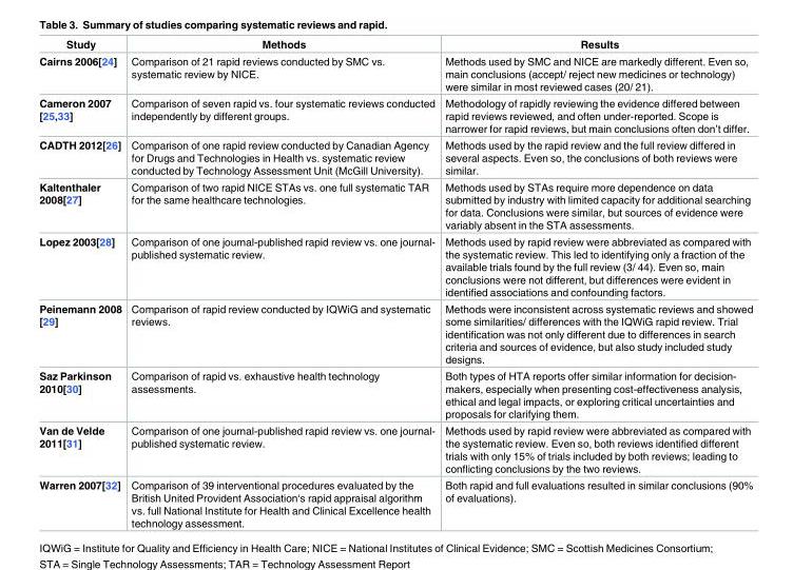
<table><thead><tr><td>Study</td><td>Methods</td><td>Results</td></tr></thead><tbody><tr><td>Cairns 2006[24]</td><td>Comparison of 21 rapid reviews conducted by SMC vs. systematic review by NICE.</td><td>Methods used by SMC and NICE are markedly different. Even so, main conclusions (accept/ reject new medicines or technology) were similar in most reviewed cases (20/ 21).</td></tr><tr><td>Cameron 2007 [25,33]</td><td>Comparison of seven rapid vs. four systematic reviews conducted independently by different groups.</td><td>Methodology of rapidly reviewing the evidence differed between rapid reviews reviewed, and often under-reported. Scope is narrower for rapid reviews, but main conclusions often don’t differ.</td></tr><tr><td>CADTH 2012[26]</td><td>Comparison of one rapid review conducted by Canadian Agency for Drugs and Technologies in Health vs. systematic review conducted by Technology Assessment Unit (McGill University).</td><td>Methods used by the rapid review and the full review differed in several aspects. Even so, the conclusions of both reviews were similar.</td></tr><tr><td>Kaltenthaler 2008[27]</td><td>Comparison of two rapid NICE STAs vs. one full systematic TAR for the same healthcare technologies.</td><td>Methods used by STAs require more dependence on data submitted by industry with limited capacity for additional searching for data. Conclusions were similar, but sources of evidence were variably absent in the STA assessments.</td></tr><tr><td>Lopez 2003[28]</td><td>Comparison of one journal-published rapid review vs. one journal- published systematic review.</td><td>Methods used by rapid review were abbreviated as compared with the systematic review. This led to identifying only a fraction of the available trials found by the full review (3/ 44). Even so, main conclusions were not different, but differences were evident in identified associations and confounding factors.</td></tr><tr><td>Peinemann 2008 [29]</td><td>Comparison of rapid review conducted by IQWiG and systematic reviews.</td><td>Methods were inconsistent across systematic reviews and showed some similarities/ differences with the IQWiG rapid review. Trial identification was not only different due to differences in search criteria and sources of evidence, but also study included study designs.</td></tr><tr><td>Saz Parkinson 2010[30]</td><td>Comparison of rapid vs. exhaustive health technology assessments.</td><td>Both types of HTA reports offer similar information for decision- makers, especially when presenting cost-effectiveness analysis, ethical and legal impacts, or exploring critical uncertainties and proposals for clarifying them.</td></tr><tr><td>Van de Velde 2011[31]</td><td>Comparison of one journal-published rapid review vs. one journal- published systematic review.</td><td>Methods used by rapid review were abbreviated as compared with the systematic review. Even so, both reviews identified different trials with only 15% of trials included by both reviews; leading to conflicting conclusions by the two reviews.</td></tr><tr><td>Warren 2007[32]</td><td>Comparison of 39 interventional procedures evaluated by the British United Provident Association‘s rapid appraisal algorithm vs. full National Institute for Health and Clinical Excellence health technology assessment.</td><td>Both rapid and full evaluations resulted in similar conclusions (90% of evaluations).</td></tr></tbody></table>